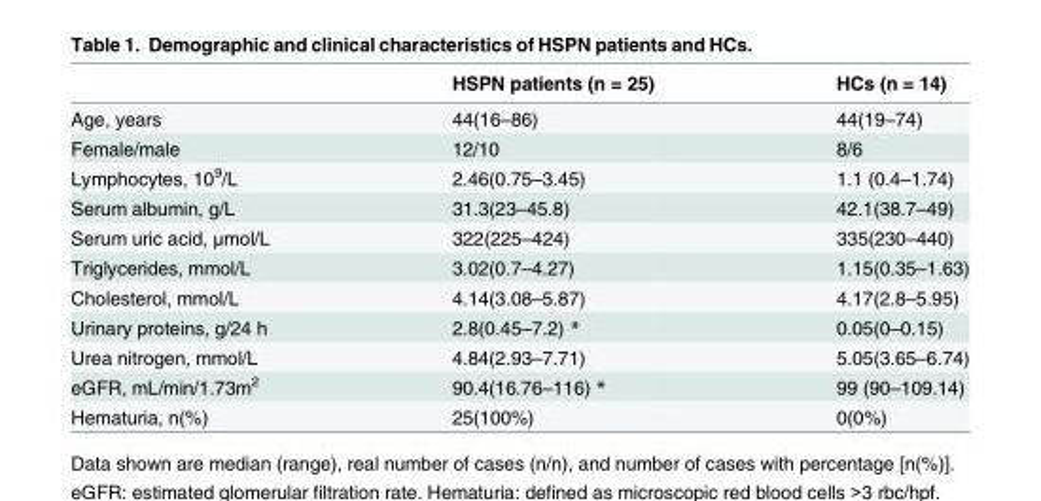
<table><thead><tr><td></td><td>HSPN patients (n = 25)</td><td>HCs (n = 14)</td></tr></thead><tbody><tr><td>Age, years</td><td>44(16–86)</td><td>44(19–74)</td></tr><tr><td>Female/male</td><td>12/10</td><td>8/6</td></tr><tr><td>Lymphocytes, 10<sup>9</sup>/L</td><td>2.46(0.75–3.45)</td><td>1.1 (0.4–1.74)</td></tr><tr><td>Serum albumin, g/L</td><td>31.3(23–45.8)</td><td>42.1(38.7–49)</td></tr><tr><td>Serum uric acid, μmol/L</td><td>322(225–424)</td><td>335(230–440)</td></tr><tr><td>Triglycerides, mmol/L</td><td>3.02(0.7–4.27)</td><td>1.15(0.35–1.63)</td></tr><tr><td>Cholesterol, mmol/L</td><td>4.14(3.08–5.87)</td><td>4.17(2.8–5.95)</td></tr><tr><td>Urinary proteins, g/24 h</td><td>2.8(0.45–7.2) *</td><td>0.05(0–0.15)</td></tr><tr><td>Urea nitrogen, mmol/L</td><td>4.84(2.93–7.71)</td><td>5.05(3.65–6.74)</td></tr><tr><td>eGFR, mL/min/1.73m<sup>2</sup></td><td>90.4(16.76–116) *</td><td>99 (90–109.14)</td></tr><tr><td>Hematuria, n(%)</td><td>25(100%)</td><td>0(0%)</td></tr></tbody></table>